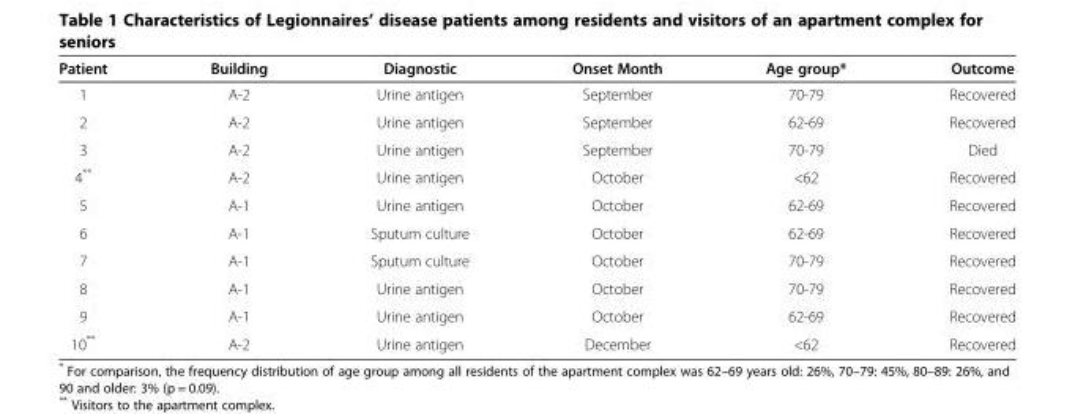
<table><thead><tr><td>Patient</td><td>Building</td><td>Diagnostic</td><td>Onset Month</td><td>Age group*</td><td>Outcome</td></tr></thead><tbody><tr><td>1</td><td>A-2</td><td>Urine antigen</td><td>September</td><td>70-79</td><td>Recovered</td></tr><tr><td>2</td><td>A-2</td><td>Urine antigen</td><td>September</td><td>62-69</td><td>Recovered</td></tr><tr><td>3</td><td>A-2</td><td>Urine antigen</td><td>September</td><td>70-79</td><td>Died</td></tr><tr><td>4**</td><td>A-2</td><td>Urine antigen</td><td>October</td><td>&lt;62</td><td>Recovered</td></tr><tr><td>5</td><td>A-1</td><td>Urine antigen</td><td>October</td><td>62-69</td><td>Recovered</td></tr><tr><td>6</td><td>A-1</td><td>Sputum culture</td><td>October</td><td>62-69</td><td>Recovered</td></tr><tr><td>7</td><td>A-1</td><td>Sputum culture</td><td>October</td><td>70-79</td><td>Recovered</td></tr><tr><td>8</td><td>A-1</td><td>Urine antigen</td><td>October</td><td>70-79</td><td>Recovered</td></tr><tr><td>9</td><td>A-1</td><td>Urine antigen</td><td>October</td><td>62-69</td><td>Recovered</td></tr><tr><td>10**</td><td>A-2</td><td>Urine antigen</td><td>December</td><td>&lt;62</td><td>Recovered</td></tr></tbody></table>